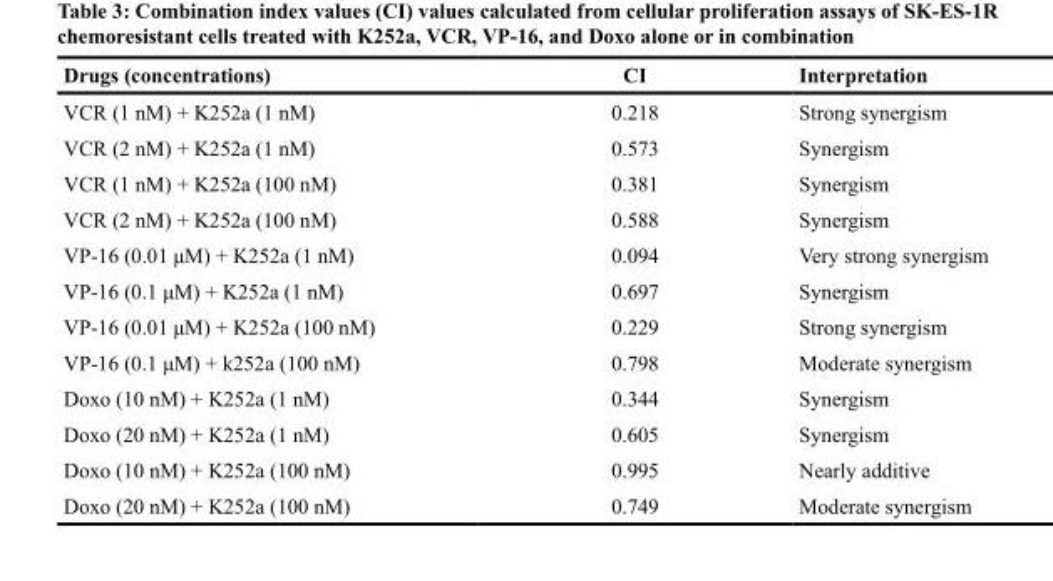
<table><thead><tr><td>Drugs (concentrations)</td><td>CI</td><td>Interpretation</td></tr></thead><tbody><tr><td>VCR (1 nM) + K252a (1 nM)</td><td>0.218</td><td>Strong synergism</td></tr><tr><td>VCR (2 nM) + K252a (1 nM)</td><td>0.573</td><td>Synergism</td></tr><tr><td>VCR (1 nM) + K252a (100 nM)</td><td>0.381</td><td>Synergism</td></tr><tr><td>VCR (2 nM) + K252a (100 nM)</td><td>0.588</td><td>Synergism</td></tr><tr><td>VP-16 (0.01 μM) + K252a (1 nM)</td><td>0.094</td><td>Very strong synergism</td></tr><tr><td>VP-16 (0.1 μM) + K252a (1 nM)</td><td>0.697</td><td>Synergism</td></tr><tr><td>VP-16 (0.01 μM) + K252a (100 nM)</td><td>0.229</td><td>Strong synergism</td></tr><tr><td>VP-16 (0.1 μM) + k252a (100 nM)</td><td>0.798</td><td>Moderate synergism</td></tr><tr><td>Doxo (10 nM) + K252a (1 nM)</td><td>0.344</td><td>Synergism</td></tr><tr><td>Doxo (20 nM) + K252a (1 nM)</td><td>0.605</td><td>Synergism</td></tr><tr><td>Doxo (10 nM) + K252a (100 nM)</td><td>0.995</td><td>Nearly additive</td></tr><tr><td>Doxo (20 nM) + K252a (100 nM)</td><td>0.749</td><td>Moderate synergism</td></tr></tbody></table>